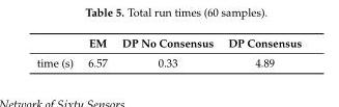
<table><thead><tr><td></td><td>EM</td><td>DP No Consensus</td><td>DP Consensus</td></tr></thead><tbody><tr><td>time (s)</td><td>6.57</td><td>0.33</td><td>4.89</td></tr></tbody></table>